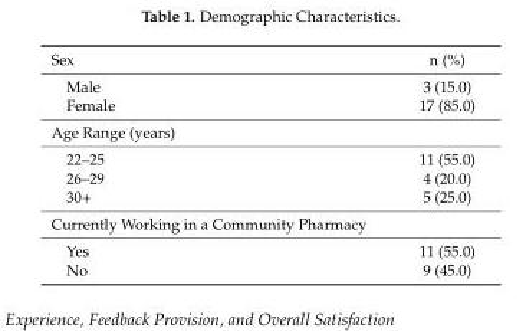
<table><tbody><tr><td>Sex</td><td>n (%)</td></tr><tr><td>Male</td><td>3 (15.0)</td></tr><tr><td>Female</td><td>17 (85.0)</td></tr><tr><td colspan="2">Age Range (years)</td></tr><tr><td>22–25</td><td>11 (55.0)</td></tr><tr><td>26–29</td><td>4 (20.0)</td></tr><tr><td>30+</td><td>5 (25.0)</td></tr><tr><td colspan="2">Currently Working in a Community Pharmacy</td></tr><tr><td>Yes</td><td>11 (55.0)</td></tr><tr><td>No</td><td>9 (45.0)</td></tr></tbody></table>